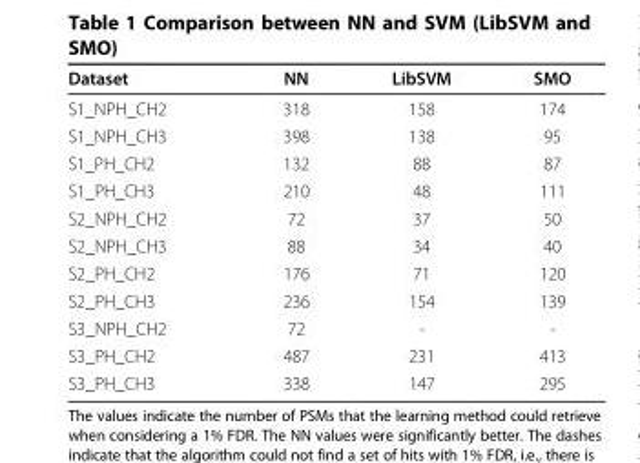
<table><thead><tr><td>Dataset</td><td>NN</td><td>LibSVM</td><td>SMO</td></tr></thead><tbody><tr><td>S1_NPH_CH2</td><td>318</td><td>158</td><td>174</td></tr><tr><td>S1_NPH_CH3</td><td>398</td><td>138</td><td>95</td></tr><tr><td>S1_PH_CH2</td><td>132</td><td>88</td><td>87</td></tr><tr><td>S1_PH_CH3</td><td>210</td><td>48</td><td>111</td></tr><tr><td>S2_NPH_CH2</td><td>72</td><td>37</td><td>50</td></tr><tr><td>S2_NPH_CH3</td><td>88</td><td>34</td><td>40</td></tr><tr><td>S2_PH_CH2</td><td>176</td><td>71</td><td>120</td></tr><tr><td>S2_PH_CH3</td><td>236</td><td>154</td><td>139</td></tr><tr><td>S3_NPH_CH2</td><td>72</td><td>-</td><td>-</td></tr><tr><td>S3_PH_CH2</td><td>487</td><td>231</td><td>413</td></tr><tr><td>S3_PH_CH3</td><td>338</td><td>147</td><td>295</td></tr></tbody></table>